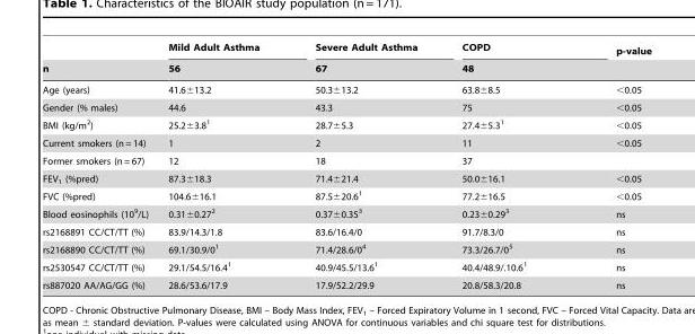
<table><thead><tr><td rowspan="2">n</td><td rowspan="2">Mild Adult Asthma 56</td><td rowspan="2">Severe Adult Asthma 67</td><td rowspan="2">COPD 48</td><td rowspan="2">p-value</td></tr><tr></tr></thead><tbody><tr><td>Age (years)</td><td>41.6±13.2</td><td>50.3±13.2</td><td>63.8±8.5</td><td>&lt;0.05</td></tr><tr><td>Gender (% males)</td><td>44.6</td><td>43.3</td><td>75</td><td>&lt;0.05</td></tr><tr><td>BMI (kg/m<sup>2</sup>)</td><td>25.2±3.8<sup>1</sup></td><td>28.7±5.3</td><td>27.4±5.3<sup>1</sup></td><td>&lt;0.05</td></tr><tr><td>Current smokers (n = 14)</td><td>1</td><td>2</td><td>11</td><td>&lt;0.05</td></tr><tr><td>Former smokers (n = 67)</td><td>12</td><td>18</td><td>37</td><td></td></tr><tr><td>FEV<sub>1</sub> (%pred)</td><td>87.3±18.3</td><td>71.4±21.4</td><td>50.0±16.1</td><td>&lt;0.05</td></tr><tr><td>FVC (%pred)</td><td>104.6±16.1</td><td>87.5±20.6<sup>1</sup></td><td>77.2±16.5</td><td>&lt;0.05</td></tr><tr><td>Blood eosinophils (10<sup>9</sup>/L)</td><td>0.31±0.27<sup>2</sup></td><td>0.37±0.35<sup>3</sup></td><td>0.23±0.29<sup>3</sup></td><td>ns</td></tr><tr><td>rs2168891 CC/CT/TT (%)</td><td>83.9/14.3/1.8</td><td>83.6/16.4/0</td><td>91.7/8.3/0</td><td>ns</td></tr><tr><td>rs2168890 CC/CT/TT (%)</td><td>69.1/30.9/0<sup>1</sup></td><td>71.4/28.6/0<sup>4</sup></td><td>73.3/26.7/0<sup>5</sup></td><td>ns</td></tr><tr><td>rs2530547 CC/CT/TT (%)</td><td>29.1/54.5/16.4<sup>1</sup></td><td>40.9/45.5/13.6<sup>1</sup></td><td>40.4/48.9/.10.6<sup>1</sup></td><td>ns</td></tr><tr><td>rs887020 AA/AG/GG (%)</td><td>28.6/53.6/17.9</td><td>17.9/52.2/29.9</td><td>20.8/58.3/20.8</td><td>ns</td></tr></tbody></table>